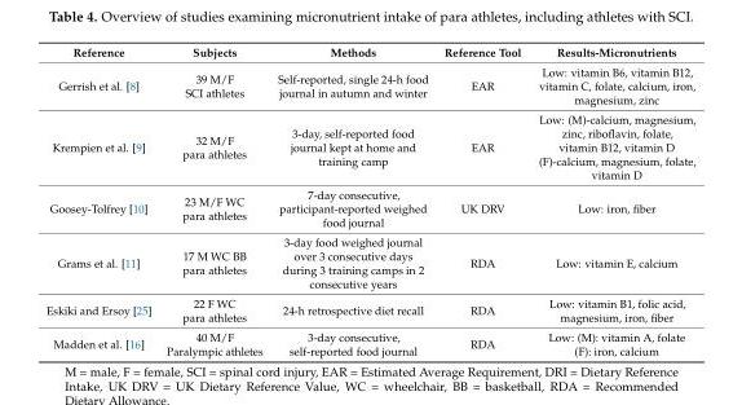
<table><thead><tr><td>Reference</td><td>Subjects</td><td>Methods</td><td>Reference Tool</td><td>Results-Micronutrients</td></tr></thead><tbody><tr><td>Gerrish et al. [8]</td><td>39 M/F SCI athletes</td><td>Self-reported, single 24-h food journal in autumn and winter</td><td>EAR</td><td>Low: vitamin B6, vitamin B12, vitamin C, folate, calcium, iron, magnesium, zinc</td></tr><tr><td>Krempien et al. [9]</td><td>32 M/F para athletes</td><td>3-day, self-reported food journal kept at home and training camp</td><td>EAR</td><td>Low: (M)-calcium, magnesium, zinc, riboflavin, folate, vitamin B12, vitamin D (F)-calcium, magnesium, folate, vitamin D</td></tr><tr><td>Goosey-Tolfrey [10]</td><td>23 M/F WC para athletes</td><td>7-day consecutive, participant-reported weighed food journal</td><td>UK DRV</td><td>Low: iron, fiber</td></tr><tr><td>Grams et al. [11]</td><td>17 M WC BB para athletes</td><td>3-day food weighed journal over 3 consecutive days during 3 training camps in 2 consecutive years</td><td>RDA</td><td>Low: vitamin E, calcium</td></tr><tr><td>Eskiki and Ersoy [25]</td><td>22 F WC para athletes</td><td>24-h retrospective diet recall</td><td>RDA</td><td>Low: vitamin B1, folic acid, magnesium, iron, fiber</td></tr><tr><td>Madden et al. [16]</td><td>40 M/F Paralympic athletes</td><td>3-day consecutive, self-reported food journal</td><td>RDA</td><td>Low: (M): vitamin A, folate (F): iron, calcium</td></tr></tbody></table>